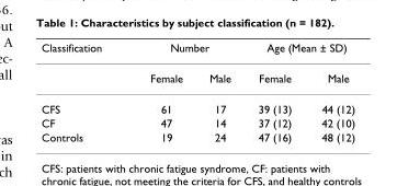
<table><thead><tr><td rowspan="2">Classification</td><td colspan="2">Number</td><td colspan="2">Age (Mean ± SD)</td></tr><tr><td>Female</td><td>Male</td><td>Female</td><td>Male</td></tr></thead><tbody><tr><td>CFS</td><td>61</td><td>17</td><td>39 (13)</td><td>44 (12)</td></tr><tr><td>CF</td><td>47</td><td>14</td><td>37 (12)</td><td>42 (10)</td></tr><tr><td>Controls</td><td>19</td><td>24</td><td>47 (16)</td><td>48 (12)</td></tr></tbody></table>